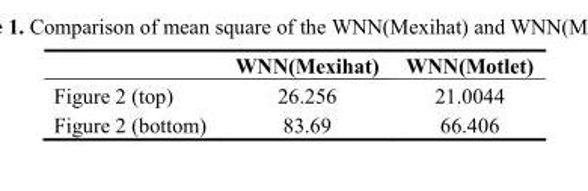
<table><thead><tr><td></td><td>WNN(Mexihat)</td><td>WNN(Motlet)</td></tr></thead><tbody><tr><td>Figure 2 (top)</td><td>26.256</td><td>21.0044</td></tr><tr><td>Figure 2 (bottom)</td><td>83.69</td><td>66.406</td></tr></tbody></table>